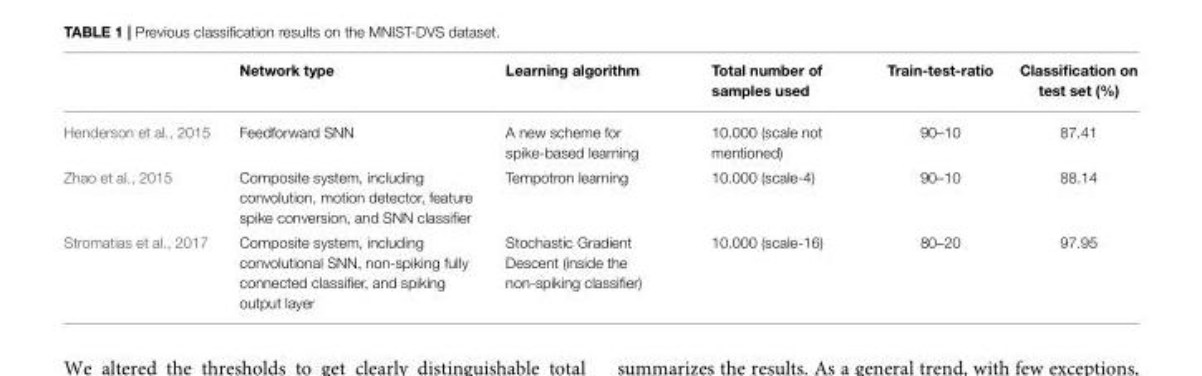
<table><thead><tr><td></td><td>Network type</td><td>Learning algorithm</td><td>Total number of samples used</td><td>Train-test-ratio</td><td>Classification on test set (%)</td></tr></thead><tbody><tr><td>Henderson et al., 2015</td><td>Feedforward SNN</td><td>A new scheme for spike-based learning</td><td>10.000 (scale not mentioned)</td><td>90–10</td><td>87.41</td></tr><tr><td>Zhao et al., 2015</td><td>Composite system, including convolution, motion detector, feature spike conversion, and SNN classifier</td><td>Tempotron learning</td><td>10.000 (scale-4)</td><td>90–10</td><td>88.14</td></tr><tr><td>Stromatias et al., 2017</td><td>Composite system, including convolutional SNN, non-spiking fully connected classifier, and spiking output layer</td><td>Stochastic Gradient Descent (inside the non-spiking classifier)</td><td>10.000 (scale-16)</td><td>80–20</td><td>97.95</td></tr></tbody></table>